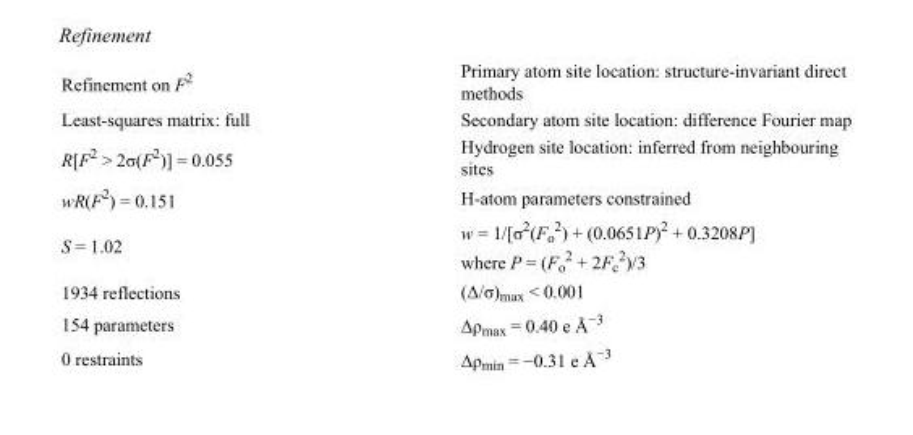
<table><tbody><tr><td>Refinement on F<sup>2</sup></td><td>Primary atom site location: structure-invariant direct methods</td></tr><tr><td>Least-squares matrix: full</td><td>Secondary atom site location: difference Fourier map</td></tr><tr><td>R[F<sup>2</sup> &gt; 2σ(F<sup>2</sup>)] = 0.055</td><td>Hydrogen site location: inferred from neighbouring sites</td></tr><tr><td>wR(F<sup>2</sup>) = 0.151</td><td>H-atom parameters constrained</td></tr><tr><td>S = 1.02</td><td>w = 1/[σ<sup>2</sup>(F<sub>o</sub> <sup>2</sup>) + (0.0651P)<sup>2</sup> + 0.3208P] where P = (F<sub>o</sub> <sup>2</sup> + 2F<sub>c</sub> <sup>2</sup>)/3</td></tr><tr><td>1934 reflections</td><td>(Δ/σ)<sub>max</sub> &lt; 0.001</td></tr><tr><td>154 parameters</td><td>Δρ<sub>max</sub> = 0.40 e Å<sup>−3</sup></td></tr><tr><td>0 restraints</td><td>Δρ<sub>min</sub> = −0.31 e Å<sup>−3</sup></td></tr></tbody></table>